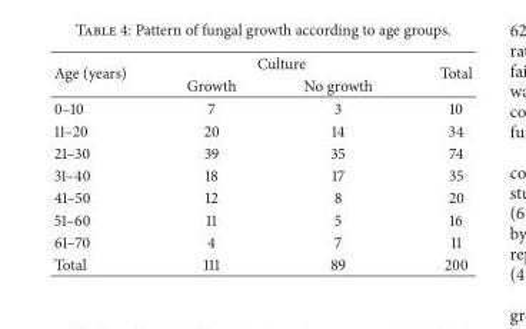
<table><thead><tr><td rowspan="2">Age (years)</td><td colspan="2">Culture</td><td rowspan="2">Total</td></tr><tr><td>Growth</td><td>No growth</td></tr></thead><tbody><tr><td>0–10</td><td>7</td><td>3</td><td>10</td></tr><tr><td>11–20</td><td>20</td><td>14</td><td>34</td></tr><tr><td>21–30</td><td>39</td><td>35</td><td>74</td></tr><tr><td>31–40</td><td>18</td><td>17</td><td>35</td></tr><tr><td>41–50</td><td>12</td><td>8</td><td>20</td></tr><tr><td>51–60</td><td>11</td><td>5</td><td>16</td></tr><tr><td>61–70</td><td>4</td><td>7</td><td>11</td></tr><tr><td>Total</td><td>111</td><td>89</td><td>200</td></tr></tbody></table>